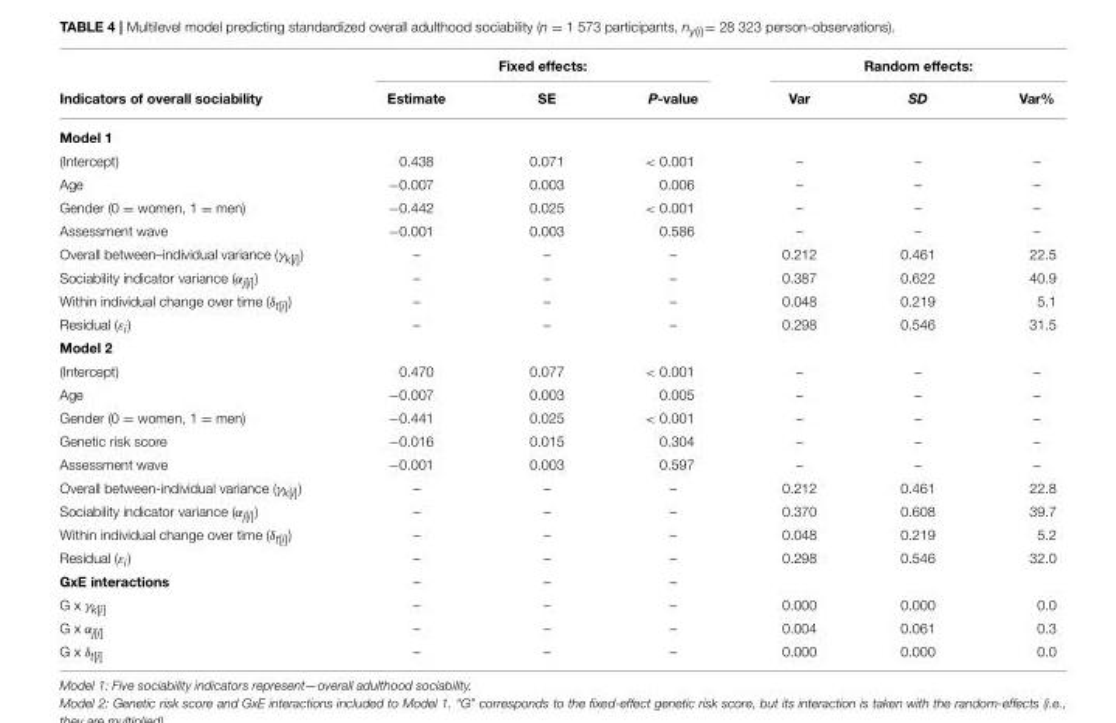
<table><thead><tr><td rowspan="2">Indicators of overall sociability</td><td colspan="3">Fixed effects:</td><td colspan="3">Random effects:</td></tr><tr><td>Estimate</td><td>SE</td><td>P-value</td><td>Var</td><td>SD</td><td>Var%</td></tr></thead><tbody><tr><td colspan="7">Model 1</td></tr><tr><td>(Intercept)</td><td>0.438</td><td>0.071</td><td>&lt; 0.001</td><td>–</td><td>–</td><td>–</td></tr><tr><td>Age</td><td>−0.007</td><td>0.003</td><td>0.006</td><td>–</td><td>–</td><td>–</td></tr><tr><td>Gender (0 = women, 1 = men)</td><td>−0.442</td><td>0.025</td><td>&lt; 0.001</td><td>–</td><td>–</td><td>–</td></tr><tr><td>Assessment wave</td><td>−0.001</td><td>0.003</td><td>0.586</td><td>–</td><td>–</td><td>–</td></tr><tr><td>Overall between–individual variance (γk[i])</td><td>–</td><td>–</td><td>–</td><td>0.212</td><td>0.461</td><td>22.5</td></tr><tr><td>Sociability indicator variance (αj[i])</td><td>–</td><td>–</td><td>–</td><td>0.387</td><td>0.622</td><td>40.9</td></tr><tr><td>Within individual change over time (δt[i])</td><td>–</td><td>–</td><td>–</td><td>0.048</td><td>0.219</td><td>5.1</td></tr><tr><td>Residual (εi)</td><td>–</td><td>–</td><td>–</td><td>0.298</td><td>0.546</td><td>31.5</td></tr><tr><td colspan="7">Model 2</td></tr><tr><td>(Intercept)</td><td>0.470</td><td>0.077</td><td>&lt; 0.001</td><td>–</td><td>–</td><td>–</td></tr><tr><td>Age</td><td>−0.007</td><td>0.003</td><td>0.005</td><td>–</td><td>–</td><td>–</td></tr><tr><td>Gender (0 = women, 1 = men)</td><td>−0.441</td><td>0.025</td><td>&lt; 0.001</td><td>–</td><td>–</td><td>–</td></tr><tr><td>Genetic risk score</td><td>−0.016</td><td>0.015</td><td>0.304</td><td>–</td><td>–</td><td>–</td></tr><tr><td>Assessment wave</td><td>−0.001</td><td>0.003</td><td>0.597</td><td>–</td><td>–</td><td>–</td></tr><tr><td>Overall between-individual variance (γk[i])</td><td>–</td><td>–</td><td>–</td><td>0.212</td><td>0.461</td><td>22.8</td></tr><tr><td>Sociability indicator variance (αj[i])</td><td>–</td><td>–</td><td>–</td><td>0.370</td><td>0.608</td><td>39.7</td></tr><tr><td>Within individual change over time (δt[i])</td><td>–</td><td>–</td><td>–</td><td>0.048</td><td>0.219</td><td>5.2</td></tr><tr><td>Residual (εi)</td><td>–</td><td>–</td><td>–</td><td>0.298</td><td>0.546</td><td>32.0</td></tr><tr><td>GxE interactions</td><td>–</td><td>–</td><td>–</td><td></td><td></td><td></td></tr><tr><td>G x γk[i]</td><td>–</td><td>–</td><td>–</td><td>0.000</td><td>0.000</td><td>0.0</td></tr><tr><td>G x αj[i]</td><td>–</td><td>–</td><td>–</td><td>0.004</td><td>0.061</td><td>0.3</td></tr><tr><td>G x δt[i]</td><td>–</td><td>–</td><td>–</td><td>0.000</td><td>0.000</td><td>0.0</td></tr></tbody></table>